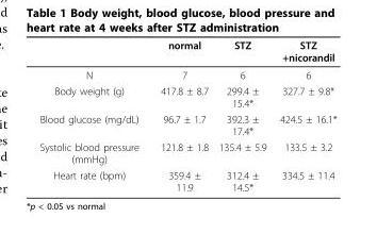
<table><thead><tr><td></td><td>normal</td><td>STZ</td><td>STZ +nicorandil</td></tr></thead><tbody><tr><td>N</td><td>7</td><td>6</td><td>6</td></tr><tr><td>Body weight (g)</td><td>417.8 ± 8.7</td><td>299.4 ± 15.4*</td><td>327.7 ± 9.8*</td></tr><tr><td>Blood glucose (mg/dL)</td><td>96.7 ± 1.7</td><td>392.3 ± 17.4*</td><td>424.5 ± 16.1*</td></tr><tr><td>Systolic blood pressure (mmHg)</td><td>121.8 ± 1.8</td><td>135.4 ± 5.9</td><td>133.5 ± 3.2</td></tr><tr><td>Heart rate (bpm)</td><td>359.4 ± 11.9</td><td>312.4 ± 14.5*</td><td>334.5 ± 11.4</td></tr></tbody></table>